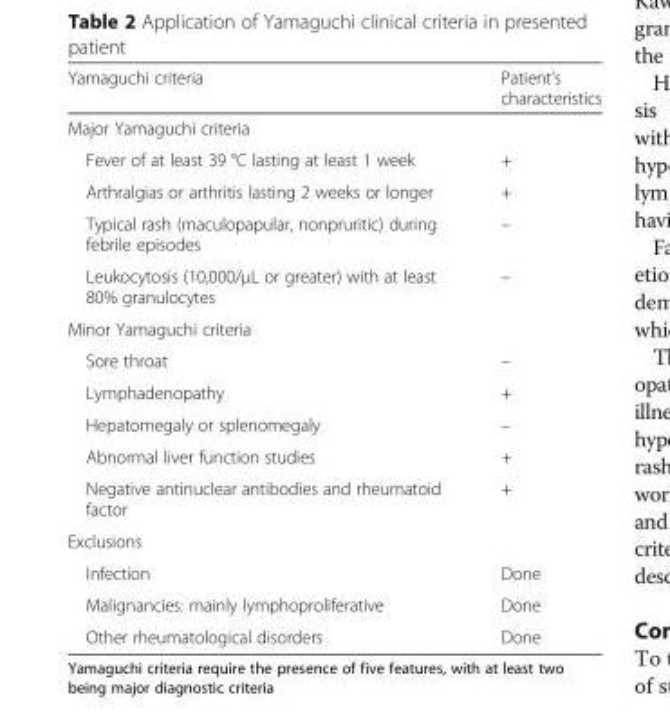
<table><thead><tr><td>Yamaguchi criteria</td><td>Patient’s characteristics</td></tr></thead><tbody><tr><td colspan="2">Major Yamaguchi criteria</td></tr><tr><td>Fever of at least 39 °C lasting at least 1 week</td><td>+</td></tr><tr><td>Arthralgias or arthritis lasting 2 weeks or longer</td><td>+</td></tr><tr><td>Typical rash (maculopapular, nonpruritic) during febrile episodes</td><td>–</td></tr><tr><td>Leukocytosis (10,000/μL or greater) with at least 80% granulocytes</td><td>–</td></tr><tr><td colspan="2">Minor Yamaguchi criteria</td></tr><tr><td>Sore throat</td><td>–</td></tr><tr><td>Lymphadenopathy</td><td>+</td></tr><tr><td>Hepatomegaly or splenomegaly</td><td>–</td></tr><tr><td>Abnormal liver function studies</td><td>+</td></tr><tr><td>Negative antinuclear antibodies and rheumatoid factor</td><td>+</td></tr><tr><td colspan="2">Exclusions</td></tr><tr><td>Infection</td><td>Done</td></tr><tr><td>Malignancies: mainly lymphoproliferative</td><td>Done</td></tr><tr><td>Other rheumatological disorders</td><td>Done</td></tr></tbody></table>